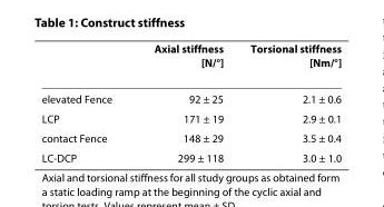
<table><thead><tr><td></td><td>Axial stiffness [N/°]</td><td>Torsional stiffness [Nm/°]</td></tr></thead><tbody><tr><td>elevated Fence</td><td>92 ± 25</td><td>2.1 ± 0.6</td></tr><tr><td>LCP</td><td>171 ± 19</td><td>2.9 ± 0.1</td></tr><tr><td>contact Fence</td><td>148 ± 29</td><td>3.5 ± 0.4</td></tr><tr><td>LC-DCP</td><td>299 ± 118</td><td>3.0 ± 1.0</td></tr></tbody></table>